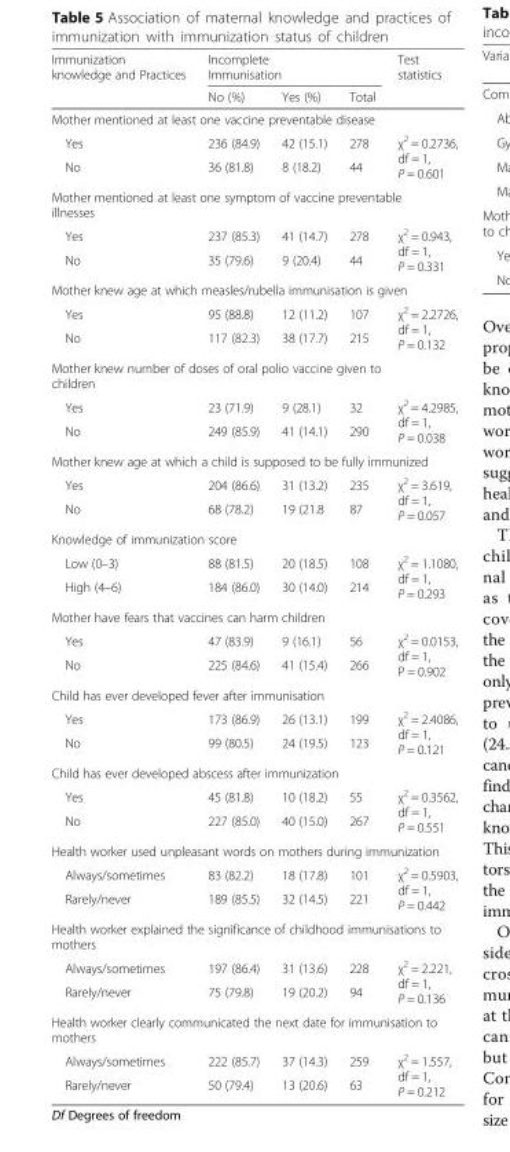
<table><thead><tr><td rowspan="2">Immunization knowledge and Practices</td><td colspan="3">Incomplete Immunisation</td><td rowspan="2">Test statistics</td></tr><tr><td>No (%)</td><td>Yes (%)</td><td>Total</td></tr></thead><tbody><tr><td colspan="5">Mother mentioned at least one vaccine preventable disease</td></tr><tr><td>Yes</td><td>236 (84.9)</td><td>42 (15.1)</td><td>278</td><td rowspan="2">χ<sup>2</sup> = 0.2736, df = 1, P = 0.601</td></tr><tr><td>No</td><td>36 (81.8)</td><td>8 (18.2)</td><td>44</td></tr><tr><td colspan="5">Mother mentioned at least one symptom of vaccine preventable illnesses</td></tr><tr><td>Yes</td><td>237 (85.3)</td><td>41 (14.7)</td><td>278</td><td rowspan="2">χ<sup>2</sup> = 0.943, df = 1, P = 0.331</td></tr><tr><td>No</td><td>35 (79.6)</td><td>9 (20.4)</td><td>44</td></tr><tr><td colspan="5">Mother knew age at which measles/rubella immunisation is given</td></tr><tr><td>Yes</td><td>95 (88.8)</td><td>12 (11.2)</td><td>107</td><td rowspan="2">χ<sup>2</sup> = 2.2726, df = 1, P = 0.132</td></tr><tr><td>No</td><td>117 (82.3)</td><td>38 (17.7)</td><td>215</td></tr><tr><td colspan="5">Mother knew number of doses of oral polio vaccine given to children</td></tr><tr><td>Yes</td><td>23 (71.9)</td><td>9 (28.1)</td><td>32</td><td rowspan="2">χ<sup>2</sup> = 4.2985, df = 1, P = 0.038</td></tr><tr><td>No</td><td>249 (85.9)</td><td>41 (14.1)</td><td>290</td></tr><tr><td colspan="5">Mother knew age at which a child is supposed to be fully immunized</td></tr><tr><td>Yes</td><td>204 (86.6)</td><td>31 (13.2)</td><td>235</td><td rowspan="2">χ<sup>2</sup> = 3.619, df = 1, P = 0.057</td></tr><tr><td>No</td><td>68 (78.2)</td><td>19 (21.8</td><td>87</td></tr><tr><td colspan="5">Knowledge of immunization score</td></tr><tr><td>Low (0–3)</td><td>88 (81.5)</td><td>20 (18.5)</td><td>108</td><td rowspan="2">χ<sup>2</sup> = 1.1080, df = 1, P = 0.293</td></tr><tr><td>High (4–6)</td><td>184 (86.0)</td><td>30 (14.0)</td><td>214</td></tr><tr><td colspan="5">Mother have fears that vaccines can harm children</td></tr><tr><td>Yes</td><td>47 (83.9)</td><td>9 (16.1)</td><td>56</td><td rowspan="2">χ<sup>2</sup> = 0.0153, df = 1, P = 0.902</td></tr><tr><td>No</td><td>225 (84.6)</td><td>41 (15.4)</td><td>266</td></tr><tr><td colspan="5">Child has ever developed fever after immunisation</td></tr><tr><td>Yes</td><td>173 (86.9)</td><td>26 (13.1)</td><td>199</td><td rowspan="2">χ<sup>2</sup> = 2.4086, df = 1, P = 0.121</td></tr><tr><td>No</td><td>99 (80.5)</td><td>24 (19.5)</td><td>123</td></tr><tr><td colspan="5">Child has ever developed abscess after immunization</td></tr><tr><td>Yes</td><td>45 (81.8)</td><td>10 (18.2)</td><td>55</td><td rowspan="2">χ<sup>2</sup> = 0.3562, df = 1, P = 0.551</td></tr><tr><td>No</td><td>227 (85.0)</td><td>40 (15.0)</td><td>267</td></tr><tr><td colspan="5">Health worker used unpleasant words on mothers during immunization</td></tr><tr><td>Always/sometimes</td><td>83 (82.2)</td><td>18 (17.8)</td><td>101</td><td rowspan="2">χ<sup>2</sup> = 0.5903, df = 1, P = 0.442</td></tr><tr><td>Rarely/never</td><td>189 (85.5)</td><td>32 (14.5)</td><td>221</td></tr><tr><td colspan="5">Health worker explained the significance of childhood immunisations to mothers</td></tr><tr><td>Always/sometimes</td><td>197 (86.4)</td><td>31 (13.6)</td><td>228</td><td rowspan="2">χ<sup>2</sup> = 2.221, df = 1, P = 0.136</td></tr><tr><td>Rarely/never</td><td>75 (79.8)</td><td>19 (20.2)</td><td>94</td></tr><tr><td colspan="5">Health worker clearly communicated the next date for immunisation to mothers</td></tr><tr><td>Always/sometimes</td><td>222 (85.7)</td><td>37 (14.3)</td><td>259</td><td rowspan="2">χ<sup>2</sup> = 1.557, df = 1, P = 0.212</td></tr><tr><td>Rarely/never</td><td>50 (79.4)</td><td>13 (20.6)</td><td>63</td></tr></tbody></table>